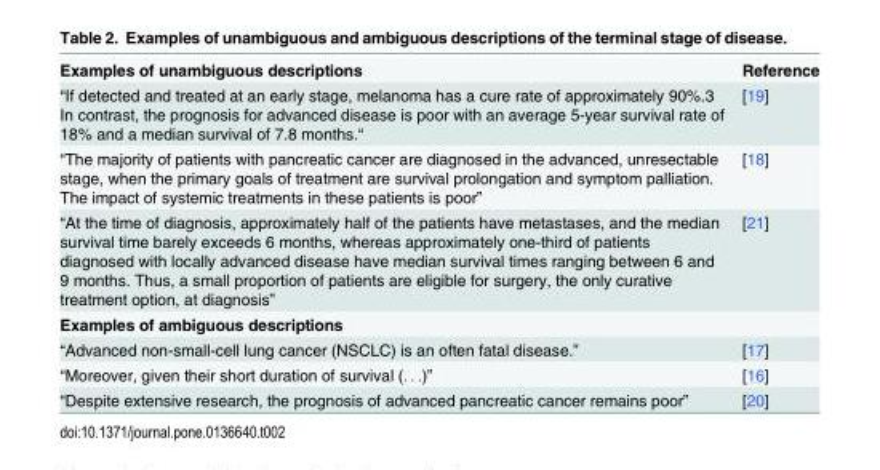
<table><tbody><tr><td>Examples of unambiguous descriptions</td><td>Reference</td></tr><tr><td>“If detected and treated at an early stage, melanoma has a cure rate of approximately 90%.3 In contrast, the prognosis for advanced disease is poor with an average 5-year survival rate of 18% and a median survival of 7.8 months.“</td><td>[19]</td></tr><tr><td>“The majority of patients with pancreatic cancer are diagnosed in the advanced, unresectable stage, when the primary goals of treatment are survival prolongation and symptom palliation. The impact of systemic treatments in these patients is poor”</td><td>[18]</td></tr><tr><td>“At the time of diagnosis, approximately half of the patients have metastases, and the median survival time barely exceeds 6 months, whereas approximately one-third of patients diagnosed with locally advanced disease have median survival times ranging between 6 and 9 months. Thus, a small proportion of patients are eligible for surgery, the only curative treatment option, at diagnosis”</td><td>[21]</td></tr><tr><td colspan="2">Examples of ambiguous descriptions</td></tr><tr><td>“Advanced non-small-cell lung cancer (NSCLC) is an often fatal disease.”</td><td>[17]</td></tr><tr><td>“Moreover, given their short duration of survival (. . .)”</td><td>[16]</td></tr><tr><td>“Despite extensive research, the prognosis of advanced pancreatic cancer remains poor”</td><td>[20]</td></tr></tbody></table>